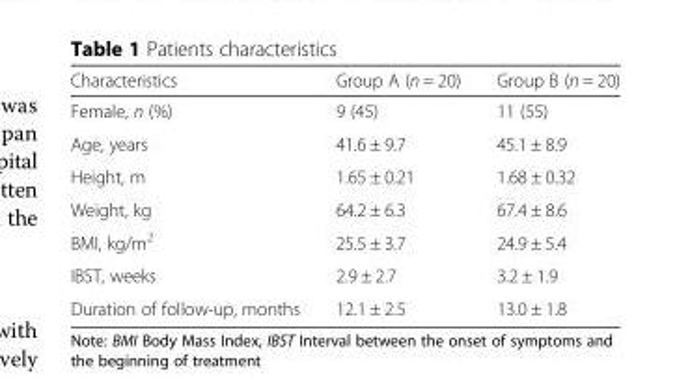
<table><thead><tr><td>Characteristics</td><td>Group A (n = 20)</td><td>Group B (n = 20)</td></tr></thead><tbody><tr><td>Female, n (%)</td><td>9 (45)</td><td>11 (55)</td></tr><tr><td>Age, years</td><td>41.6 ± 9.7</td><td>45.1 ± 8.9</td></tr><tr><td>Height, m</td><td>1.65 ± 0.21</td><td>1.68 ± 0.32</td></tr><tr><td>Weight, kg</td><td>64.2 ± 6.3</td><td>67.4 ± 8.6</td></tr><tr><td>BMI, kg/m<sup>2</sup></td><td>25.5 ± 3.7</td><td>24.9 ± 5.4</td></tr><tr><td>IBST, weeks</td><td>2.9 ± 2.7</td><td>3.2 ± 1.9</td></tr><tr><td>Duration of follow-up, months</td><td>12.1 ± 2.5</td><td>13.0 ± 1.8</td></tr></tbody></table>